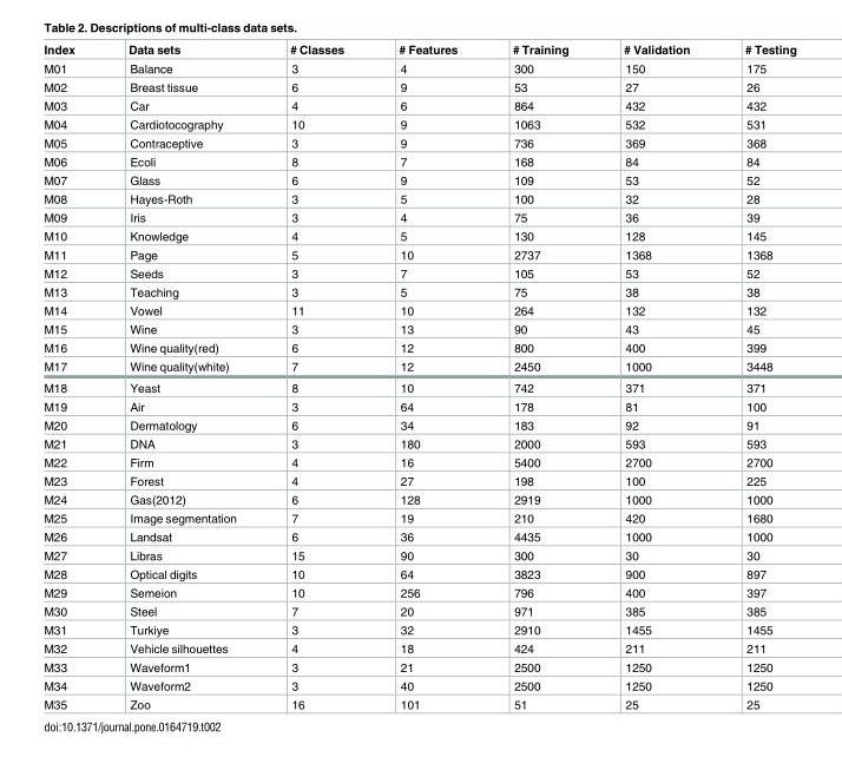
<table><thead><tr><td>Index</td><td>Data sets</td><td># Classes</td><td># Features</td><td># Training</td><td># Validation</td><td># Testing</td></tr></thead><tbody><tr><td>M01</td><td>Balance</td><td>3</td><td>4</td><td>300</td><td>150</td><td>175</td></tr><tr><td>M02</td><td>Breast tissue</td><td>6</td><td>9</td><td>53</td><td>27</td><td>26</td></tr><tr><td>M03</td><td>Car</td><td>4</td><td>6</td><td>864</td><td>432</td><td>432</td></tr><tr><td>M04</td><td>Cardiotocography</td><td>10</td><td>9</td><td>1063</td><td>532</td><td>531</td></tr><tr><td>M05</td><td>Contraceptive</td><td>3</td><td>9</td><td>736</td><td>369</td><td>368</td></tr><tr><td>M06</td><td>Ecoli</td><td>8</td><td>7</td><td>168</td><td>84</td><td>84</td></tr><tr><td>M07</td><td>Glass</td><td>6</td><td>9</td><td>109</td><td>53</td><td>52</td></tr><tr><td>M08</td><td>Hayes-Roth</td><td>3</td><td>5</td><td>100</td><td>32</td><td>28</td></tr><tr><td>M09</td><td>Iris</td><td>3</td><td>4</td><td>75</td><td>36</td><td>39</td></tr><tr><td>M10</td><td>Knowledge</td><td>4</td><td>5</td><td>130</td><td>128</td><td>145</td></tr><tr><td>M11</td><td>Page</td><td>5</td><td>10</td><td>2737</td><td>1368</td><td>1368</td></tr><tr><td>M12</td><td>Seeds</td><td>3</td><td>7</td><td>105</td><td>53</td><td>52</td></tr><tr><td>M13</td><td>Teaching</td><td>3</td><td>5</td><td>75</td><td>38</td><td>38</td></tr><tr><td>M14</td><td>Vowel</td><td>11</td><td>10</td><td>264</td><td>132</td><td>132</td></tr><tr><td>M15</td><td>Wine</td><td>3</td><td>13</td><td>90</td><td>43</td><td>45</td></tr><tr><td>M16</td><td>Wine quality(red)</td><td>6</td><td>12</td><td>800</td><td>400</td><td>399</td></tr><tr><td>M17</td><td>Wine quality(white)</td><td>7</td><td>12</td><td>2450</td><td>1000</td><td>3448</td></tr><tr><td>M18</td><td>Yeast</td><td>8</td><td>10</td><td>742</td><td>371</td><td>371</td></tr><tr><td>M19</td><td>Air</td><td>3</td><td>64</td><td>178</td><td>81</td><td>100</td></tr><tr><td>M20</td><td>Dermatology</td><td>6</td><td>34</td><td>183</td><td>92</td><td>91</td></tr><tr><td>M21</td><td>DNA</td><td>3</td><td>180</td><td>2000</td><td>593</td><td>593</td></tr><tr><td>M22</td><td>Firm</td><td>4</td><td>16</td><td>5400</td><td>2700</td><td>2700</td></tr><tr><td>M23</td><td>Forest</td><td>4</td><td>27</td><td>198</td><td>100</td><td>225</td></tr><tr><td>M24</td><td>Gas(2012)</td><td>6</td><td>128</td><td>2919</td><td>1000</td><td>1000</td></tr><tr><td>M25</td><td>Image segmentation</td><td>7</td><td>19</td><td>210</td><td>420</td><td>1680</td></tr><tr><td>M26</td><td>Landsat</td><td>6</td><td>36</td><td>4435</td><td>1000</td><td>1000</td></tr><tr><td>M27</td><td>Libras</td><td>15</td><td>90</td><td>300</td><td>30</td><td>30</td></tr><tr><td>M28</td><td>Optical digits</td><td>10</td><td>64</td><td>3823</td><td>900</td><td>897</td></tr><tr><td>M29</td><td>Semeion</td><td>10</td><td>256</td><td>796</td><td>400</td><td>397</td></tr><tr><td>M30</td><td>Steel</td><td>7</td><td>20</td><td>971</td><td>385</td><td>385</td></tr><tr><td>M31</td><td>Turkiye</td><td>3</td><td>32</td><td>2910</td><td>1455</td><td>1455</td></tr><tr><td>M32</td><td>Vehicle silhouettes</td><td>4</td><td>18</td><td>424</td><td>211</td><td>211</td></tr><tr><td>M33</td><td>Waveform1</td><td>3</td><td>21</td><td>2500</td><td>1250</td><td>1250</td></tr><tr><td>M34</td><td>Waveform2</td><td>3</td><td>40</td><td>2500</td><td>1250</td><td>1250</td></tr><tr><td>M35</td><td>Zoo</td><td>16</td><td>101</td><td>51</td><td>25</td><td>25</td></tr></tbody></table>